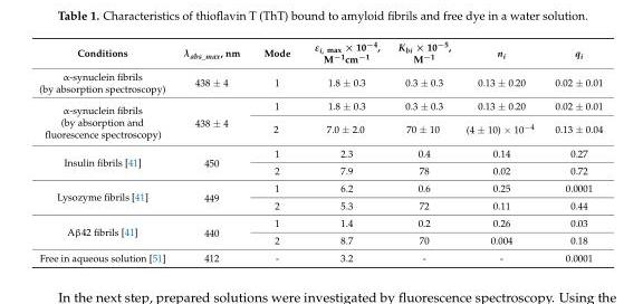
<table><thead><tr><td>Conditions</td><td>λabs_max, nm</td><td>Mode</td><td>εi, max × 10−4, M−1cm−1</td><td>Kbi × 10−5, M−1</td><td>ni</td><td>qi</td></tr></thead><tbody><tr><td>α-synuclein fibrils (by absorption spectroscopy)</td><td>438 ± 4</td><td>1</td><td>1.8 ± 0.3</td><td>0.3 ± 0.3</td><td>0.13 ± 0.20</td><td>0.02 ± 0.01</td></tr><tr><td rowspan="2">α-synuclein fibrils (by absorption and fluorescence spectroscopy)</td><td rowspan="2">438 ± 4</td><td>1</td><td>1.8 ± 0.3</td><td>0.3 ± 0.3</td><td>0.13 ± 0.20</td><td>0.02 ± 0.01</td></tr><tr><td>2</td><td>7.0 ± 2.0</td><td>70 ± 10</td><td>(4 ± 10) × 10−4</td><td>0.13 ± 0.04</td></tr><tr><td rowspan="2">Insulin fibrils [41]</td><td rowspan="2">450</td><td>1</td><td>2.3</td><td>0.4</td><td>0.14</td><td>0.27</td></tr><tr><td>2</td><td>7.9</td><td>78</td><td>0.02</td><td>0.72</td></tr><tr><td rowspan="2">Lysozyme fibrils [41]</td><td rowspan="2">449</td><td>1</td><td>6.2</td><td>0.6</td><td>0.25</td><td>0.0001</td></tr><tr><td>2</td><td>5.3</td><td>72</td><td>0.11</td><td>0.44</td></tr><tr><td rowspan="2">Aβ42 fibrils [41]</td><td rowspan="2">440</td><td>1</td><td>1.4</td><td>0.2</td><td>0.26</td><td>0.03</td></tr><tr><td>2</td><td>8.7</td><td>70</td><td>0.004</td><td>0.18</td></tr><tr><td>Free in aqueous solution [51]</td><td>412</td><td>-</td><td>3.2</td><td>-</td><td>-</td><td>0.0001</td></tr></tbody></table>